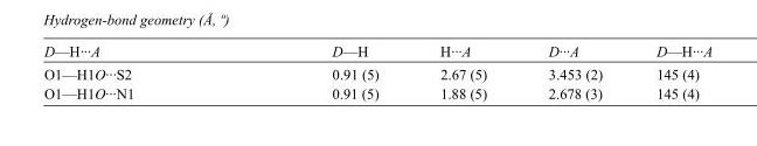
<table><tbody><tr><td>D—H···A</td><td>D—H</td><td>H···A</td><td>D···A</td><td>D—H···A</td></tr><tr><td>O1—H1O···S2</td><td>0.91 (5)</td><td>2.67 (5)</td><td>3.453 (2)</td><td>145 (4)</td></tr><tr><td>O1—H1O···N1</td><td>0.91 (5)</td><td>1.88 (5)</td><td>2.678 (3)</td><td>145 (4)</td></tr></tbody></table>